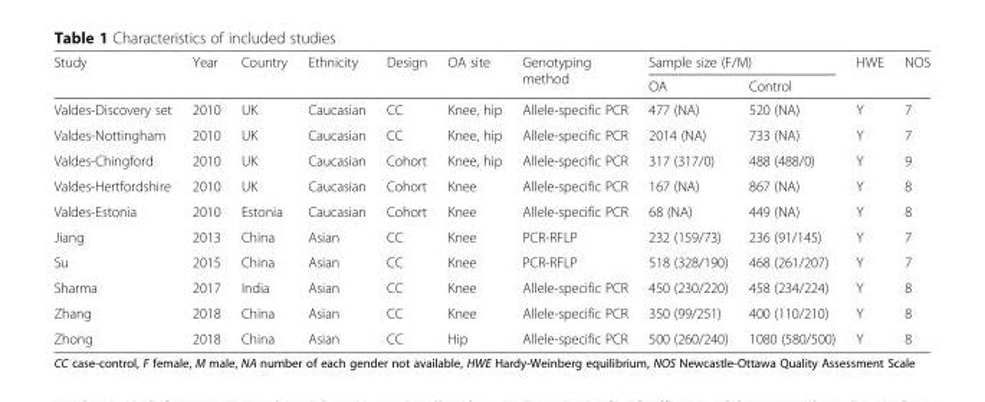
<table><thead><tr><td rowspan="2">Study</td><td rowspan="2">Year</td><td rowspan="2">Country</td><td rowspan="2">Ethnicity</td><td rowspan="2">Design</td><td rowspan="2">OA site</td><td rowspan="2">Genotyping method</td><td colspan="2">Sample size (F/M)</td><td rowspan="2">HWE</td><td rowspan="2">NOS</td></tr><tr><td>OA</td><td>Control</td></tr></thead><tbody><tr><td>Valdes-Discovery set</td><td>2010</td><td>UK</td><td>Caucasian</td><td>CC</td><td>Knee, hip</td><td>Allele-specific PCR</td><td>477 (NA)</td><td>520 (NA)</td><td>Y</td><td>7</td></tr><tr><td>Valdes-Nottingham</td><td>2010</td><td>UK</td><td>Caucasian</td><td>CC</td><td>Knee, hip</td><td>Allele-specific PCR</td><td>2014 (NA)</td><td>733 (NA)</td><td>Y</td><td>7</td></tr><tr><td>Valdes-Chingford</td><td>2010</td><td>UK</td><td>Caucasian</td><td>Cohort</td><td>Knee, hip</td><td>Allele-specific PCR</td><td>317 (317/0)</td><td>488 (488/0)</td><td>Y</td><td>9</td></tr><tr><td>Valdes-Hertfordshire</td><td>2010</td><td>UK</td><td>Caucasian</td><td>Cohort</td><td>Knee</td><td>Allele-specific PCR</td><td>167 (NA)</td><td>867 (NA)</td><td>Y</td><td>8</td></tr><tr><td>Valdes-Estonia</td><td>2010</td><td>Estonia</td><td>Caucasian</td><td>Cohort</td><td>Knee</td><td>Allele-specific PCR</td><td>68 (NA)</td><td>449 (NA)</td><td>Y</td><td>8</td></tr><tr><td>Jiang</td><td>2013</td><td>China</td><td>Asian</td><td>CC</td><td>Knee</td><td>PCR-RFLP</td><td>232 (159/73)</td><td>236 (91/145)</td><td>Y</td><td>7</td></tr><tr><td>Su</td><td>2015</td><td>China</td><td>Asian</td><td>CC</td><td>Knee</td><td>PCR-RFLP</td><td>518 (328/190)</td><td>468 (261/207)</td><td>Y</td><td>7</td></tr><tr><td>Sharma</td><td>2017</td><td>India</td><td>Asian</td><td>CC</td><td>Knee</td><td>Allele-specific PCR</td><td>450 (230/220)</td><td>458 (234/224)</td><td>Y</td><td>8</td></tr><tr><td>Zhang</td><td>2018</td><td>China</td><td>Asian</td><td>CC</td><td>Knee</td><td>Allele-specific PCR</td><td>350 (99/251)</td><td>400 (110/210)</td><td>Y</td><td>8</td></tr><tr><td>Zhong</td><td>2018</td><td>China</td><td>Asian</td><td>CC</td><td>Hip</td><td>Allele-specific PCR</td><td>500 (260/240)</td><td>1080 (580/500)</td><td>Y</td><td>8</td></tr></tbody></table>